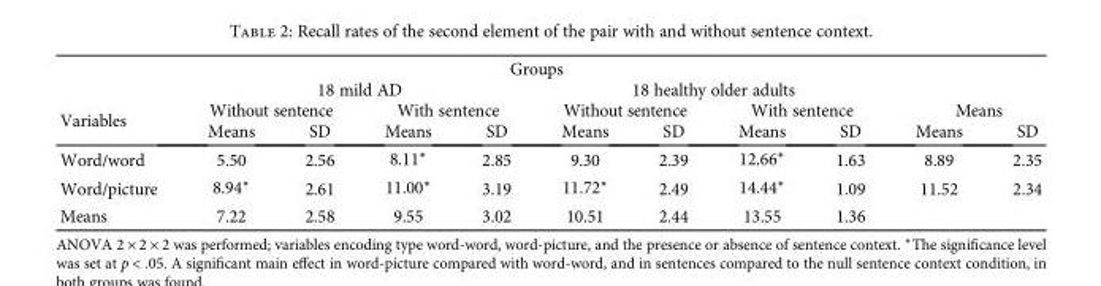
<table><thead><tr><td rowspan="4">Variables</td><td colspan="8">Groups</td><td rowspan="2"></td><td rowspan="2"></td></tr><tr><td colspan="4">18 mild AD</td><td colspan="4">18 healthy older adults</td></tr><tr><td colspan="2">Without sentence</td><td colspan="2">With sentence</td><td colspan="2">Without sentence</td><td colspan="2">With sentence</td><td colspan="2">Means</td></tr><tr><td>Means</td><td>SD</td><td>Means</td><td>SD</td><td>Means</td><td>SD</td><td>Means</td><td>SD</td><td>Means</td><td>SD</td></tr></thead><tbody><tr><td>Word/word</td><td>5.50</td><td>2.56</td><td>8.11∗</td><td>2.85</td><td>9.30</td><td>2.39</td><td>12.66∗</td><td>1.63</td><td>8.89</td><td>2.35</td></tr><tr><td>Word/picture</td><td>8.94∗</td><td>2.61</td><td>11.00∗</td><td>3.19</td><td>11.72∗</td><td>2.49</td><td>14.44∗</td><td>1.09</td><td>11.52</td><td>2.34</td></tr><tr><td>Means</td><td>7.22</td><td>2.58</td><td>9.55</td><td>3.02</td><td>10.51</td><td>2.44</td><td>13.55</td><td>1.36</td><td></td><td></td></tr></tbody></table>